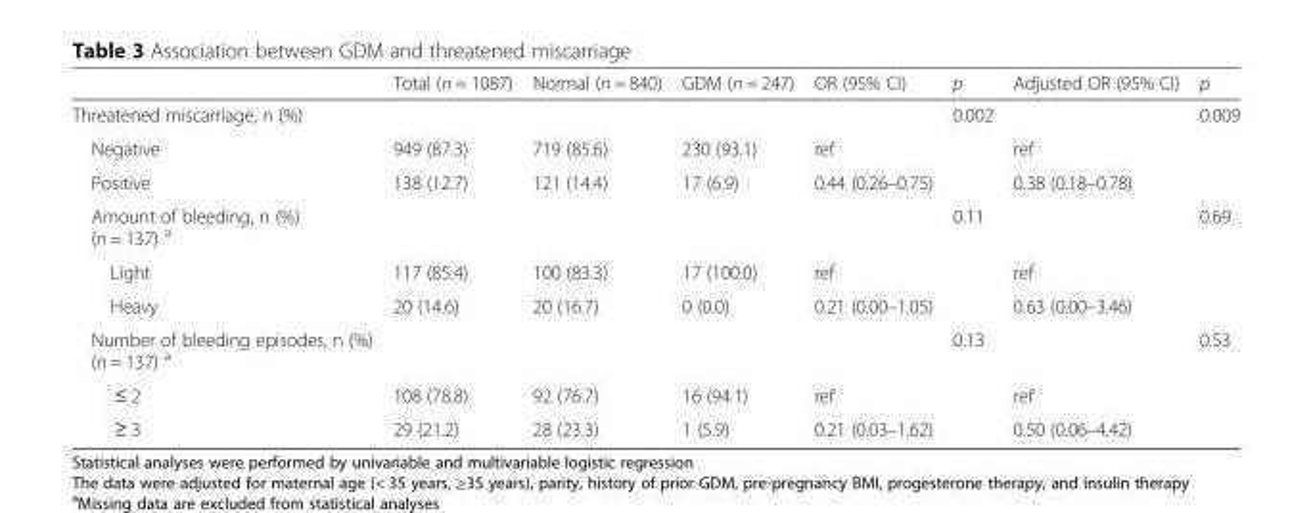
<table><thead><tr><td></td><td>Total (n = 1087)</td><td>Normal (n = 840)</td><td>GDM (n = 247)</td><td>OR (95% CI)</td><td>p</td><td>Adjusted OR (95% CI)</td><td>p</td></tr></thead><tbody><tr><td>Threatened miscarriage, n (%)</td><td></td><td></td><td></td><td></td><td>0.002</td><td></td><td>0.009</td></tr><tr><td>Negative</td><td>949 (87.3)</td><td>719 (85.6)</td><td>230 (93.1)</td><td>ref</td><td></td><td>ref</td><td></td></tr><tr><td>Positive</td><td>138 (12.7)</td><td>121 (14.4)</td><td>17 (6.9)</td><td>0.44 (0.26–0.75)</td><td></td><td>0.38 (0.18–0.78)</td><td></td></tr><tr><td>Amount of bleeding, n (%) (n = 137) <sup>a</sup></td><td></td><td></td><td></td><td></td><td>0.11</td><td></td><td>0.69</td></tr><tr><td>Light</td><td>117 (85.4)</td><td>100 (83.3)</td><td>17 (100.0)</td><td>ref</td><td></td><td>ref</td><td></td></tr><tr><td>Heavy</td><td>20 (14.6)</td><td>20 (16.7)</td><td>0 (0.0)</td><td>0.21 (0.00–1.05)</td><td></td><td>0.63 (0.00–3.46)</td><td></td></tr><tr><td>Number of bleeding episodes, n (%) (n = 137) <sup>a</sup></td><td></td><td></td><td></td><td></td><td>0.13</td><td></td><td>0.53</td></tr><tr><td>≤ 2</td><td>108 (78.8)</td><td>92 (76.7)</td><td>16 (94.1)</td><td>ref</td><td></td><td>ref</td><td></td></tr><tr><td>≥ 3</td><td>29 (21.2)</td><td>28 (23.3)</td><td>1 (5.9)</td><td>0.21 (0.03–1.62)</td><td></td><td>0.50 (0.06–4.42)</td><td></td></tr></tbody></table>